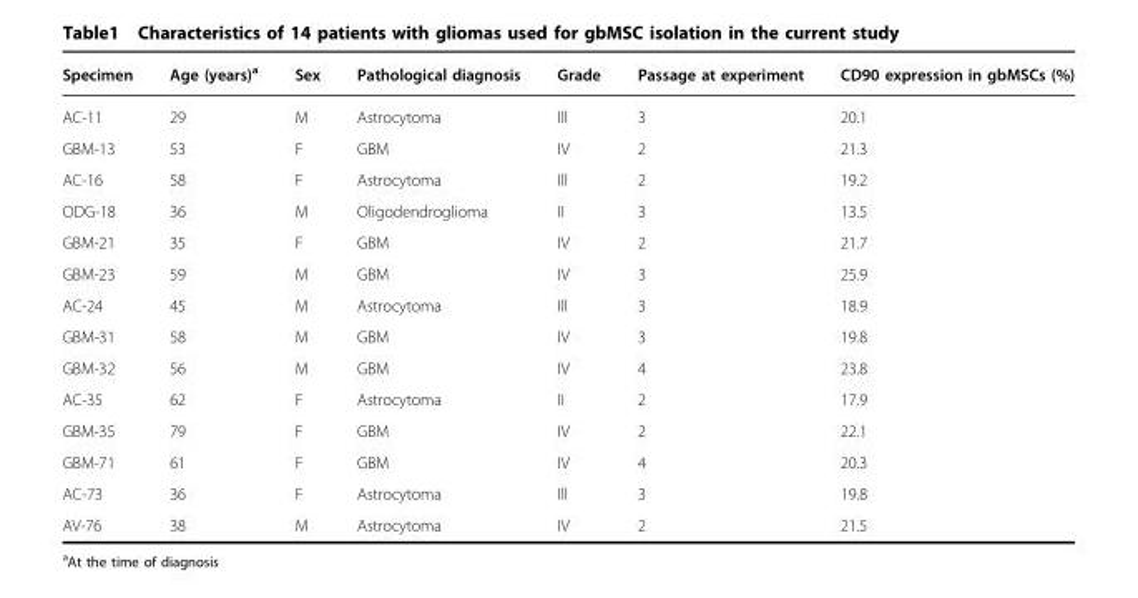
<table><thead><tr><td>Specimen</td><td>Age (years)<sup>a</sup></td><td>Sex</td><td>Pathological diagnosis</td><td>Grade</td><td>Passage at experiment</td><td>CD90 expression in gbMSCs (%)</td></tr></thead><tbody><tr><td>AC-11</td><td>29</td><td>M</td><td>Astrocytoma</td><td>Ill</td><td>3</td><td>20.1</td></tr><tr><td>GBM-13</td><td>53</td><td>F</td><td>GBM</td><td>IV</td><td>2</td><td>21.3</td></tr><tr><td>AC-16</td><td>58</td><td>F</td><td>Astrocytoma</td><td>Ill</td><td>2</td><td>19.2</td></tr><tr><td>ODG-18</td><td>36</td><td>M</td><td>Oligodendroglioma</td><td>II</td><td>3</td><td>13.5</td></tr><tr><td>GBM-21</td><td>35</td><td>F</td><td>GBM</td><td>IV</td><td>2</td><td>21.7</td></tr><tr><td>GBM-23</td><td>59</td><td>M</td><td>GBM</td><td>IV</td><td>3</td><td>25.9</td></tr><tr><td>AC-24</td><td>45</td><td>M</td><td>Astrocytoma</td><td>Ill</td><td>3</td><td>18.9</td></tr><tr><td>GBM-31</td><td>58</td><td>M</td><td>GBM</td><td>IV</td><td>3</td><td>19.8</td></tr><tr><td>GBM-32</td><td>56</td><td>M</td><td>GBM</td><td>IV</td><td>4</td><td>23.8</td></tr><tr><td>AC-35</td><td>62</td><td>F</td><td>Astrocytoma</td><td>II</td><td>2</td><td>17.9</td></tr><tr><td>GBM-35</td><td>79</td><td>F</td><td>GBM</td><td>IV</td><td>2</td><td>22.1</td></tr><tr><td>GBM-71</td><td>61</td><td>F</td><td>GBM</td><td>IV</td><td>4</td><td>20.3</td></tr><tr><td>AC-73</td><td>36</td><td>F</td><td>Astrocytoma</td><td>Ill</td><td>3</td><td>19.8</td></tr><tr><td>AV-76</td><td>38</td><td>M</td><td>Astrocytoma</td><td>IV</td><td>2</td><td>21.5</td></tr></tbody></table>